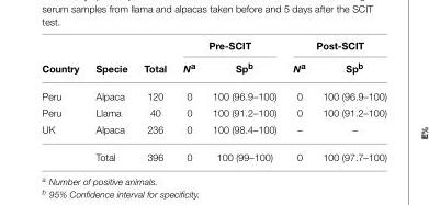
<table><thead><tr><td rowspan="2">Country</td><td rowspan="2">Specie</td><td rowspan="2">Total</td><td colspan="2">Pre-SCIT</td><td colspan="2">Post-SCIT</td></tr><tr><td>N<sup>a</sup></td><td>Sp<sup>b</sup></td><td>N<sup>a</sup></td><td>Sp<sup>b</sup></td></tr></thead><tbody><tr><td>Peru</td><td>Alpaca</td><td>120</td><td>0</td><td>100 (96.9–100)</td><td>0</td><td>100 (96.9–100)</td></tr><tr><td>Peru</td><td>Llama</td><td>40</td><td>0</td><td>100 (91.2–100)</td><td>0</td><td>100 (91.2–100)</td></tr><tr><td rowspan="2">UK</td><td>Alpaca</td><td>236</td><td>0</td><td>100 (98.4–100)</td><td>–</td><td>–</td></tr><tr><td>Total</td><td>396</td><td>0</td><td>100 (99–100)</td><td>0</td><td>100 (97.7–100)</td></tr></tbody></table>